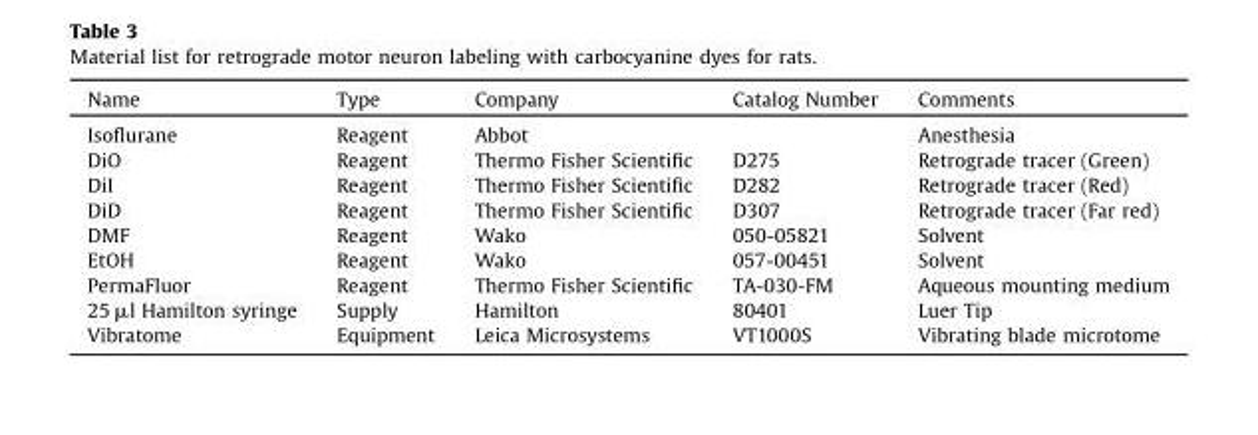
<table><thead><tr><td>Name</td><td>Type</td><td>Company</td><td>Catalog Number</td><td>Comments</td></tr></thead><tbody><tr><td>Isoflurane</td><td>Reagent</td><td>Abbot</td><td></td><td>Anesthesia</td></tr><tr><td>DiO</td><td>Reagent</td><td>Thermo Fisher Scientific</td><td>D275</td><td>Retrograde tracer (Green)</td></tr><tr><td>DiI</td><td>Reagent</td><td>Thermo Fisher Scientific</td><td>D282</td><td>Retrograde tracer (Red)</td></tr><tr><td>DiD</td><td>Reagent</td><td>Thermo Fisher Scientific</td><td>D307</td><td>Retrograde tracer (Far red)</td></tr><tr><td>DMF</td><td>Reagent</td><td>Wako</td><td>050-05821</td><td>Solvent</td></tr><tr><td>EtOH</td><td>Reagent</td><td>Wako</td><td>057-00451</td><td>Solvent</td></tr><tr><td>PermaFluor</td><td>Reagent</td><td>Thermo Fisher Scientific</td><td>TA-030-FM</td><td>Aqueous mounting medium</td></tr><tr><td>25 μl Hamilton syringe</td><td>Supply</td><td>Hamilton</td><td>80401</td><td>Luer Tip</td></tr><tr><td>Vibratome</td><td>Equipment</td><td>Leica Microsystems</td><td>VT1000S</td><td>Vibrating blade microtome</td></tr></tbody></table>